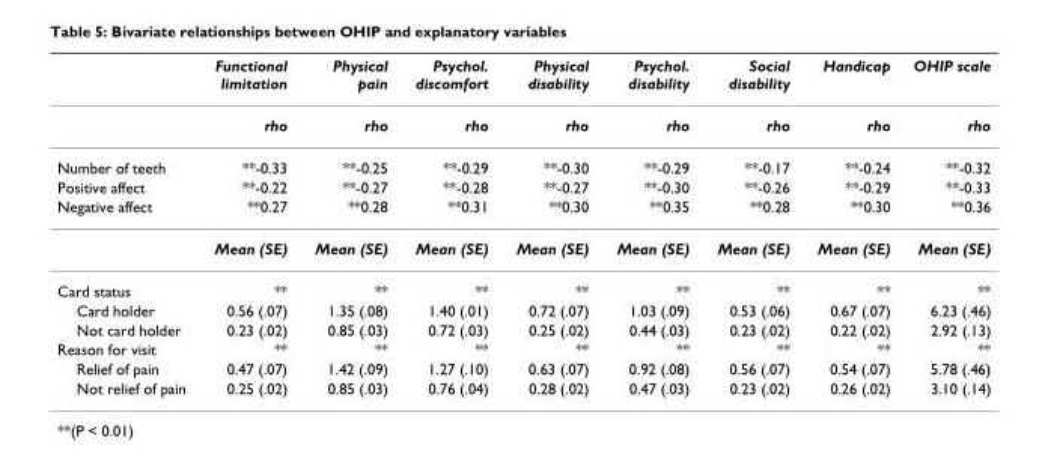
<table><thead><tr><td></td><td>Functional limitation</td><td>Physical pain</td><td>Psychol. discomfort</td><td>Physical disability</td><td>Psychol. disability</td><td>Social disability</td><td>Handicap</td><td>OHIP scale</td></tr></thead><tbody><tr><td></td><td>rho</td><td>rho</td><td>rho</td><td>rho</td><td>rho</td><td>rho</td><td>rho</td><td>rho</td></tr><tr><td>Number of teeth</td><td>**-0.33</td><td>**-0.25</td><td>**-0.29</td><td>**-0.30</td><td>**-0.29</td><td>**-0.17</td><td>**-0.24</td><td>**-0.32</td></tr><tr><td>Positive affect</td><td>**-0.22</td><td>**-0.27</td><td>**-0.28</td><td>**-0.27</td><td>**-0.30</td><td>**-0.26</td><td>**-0.29</td><td>**-0.33</td></tr><tr><td rowspan="2">Negative affect</td><td>**0.27</td><td>**0.28</td><td>**0.31</td><td>**0.30</td><td>**0.35</td><td>**0.28</td><td>**0.30</td><td>**0.36</td></tr><tr><td>Mean (SE)</td><td>Mean (SE)</td><td>Mean (SE)</td><td>Mean (SE)</td><td>Mean (SE)</td><td>Mean (SE)</td><td>Mean (SE)</td><td>Mean (SE)</td></tr><tr><td>Card status</td><td>**</td><td>**</td><td>**</td><td>**</td><td>**</td><td>**</td><td>**</td><td>**</td></tr><tr><td>Card holder</td><td>0.56 (.07)</td><td>1.35 (.08)</td><td>1.40 (.01)</td><td>0.72 (.07)</td><td>1.03 (.09)</td><td>0.53 (.06)</td><td>0.67 (.07)</td><td>6.23 (.46)</td></tr><tr><td>Not card holder</td><td>0.23 (.02)</td><td>0.85 (.03)</td><td>0.72 (.03)</td><td>0.25 (.02)</td><td>0.44 (.03)</td><td>0.23 (.02)</td><td>0.22 (.02)</td><td>2.92 (.13)</td></tr><tr><td>Reason for visit</td><td>**</td><td>**</td><td>**</td><td>**</td><td>**</td><td>**</td><td>**</td><td>**</td></tr><tr><td>Relief of pain</td><td>0.47 (.07)</td><td>1.42 (.09)</td><td>1.27 (.10)</td><td>0.63 (.07)</td><td>0.92 (.08)</td><td>0.56 (.07)</td><td>0.54 (.07)</td><td>5.78 (.46)</td></tr><tr><td>Not relief of pain</td><td>0.25 (.02)</td><td>0.85 (.03)</td><td>0.76 (.04)</td><td>0.28 (.02)</td><td>0.47 (.03)</td><td>0.23 (.02)</td><td>0.26 (.02)</td><td>3.10 (.14)</td></tr></tbody></table>